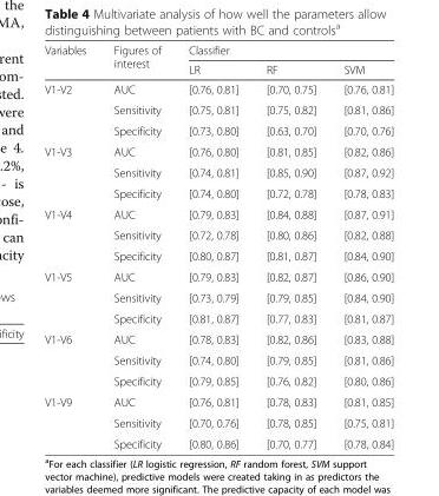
<table><thead><tr><td rowspan="2">Variables</td><td rowspan="2">Figures of interest</td><td colspan="3">Classifier</td></tr><tr><td>LR</td><td>RF</td><td>SVM</td></tr></thead><tbody><tr><td rowspan="3">V1-V2</td><td>AUC</td><td>[0.76, 0.81]</td><td>[0.70, 0.75]</td><td>[0.76, 0.81]</td></tr><tr><td>Sensitivity</td><td>[0.75, 0.81]</td><td>[0.75, 0.82]</td><td>[0.81, 0.86]</td></tr><tr><td>Specificity</td><td>[0.73, 0.80]</td><td>[0.63, 0.70]</td><td>[0.70, 0.76]</td></tr><tr><td rowspan="3">V1-V3</td><td>AUC</td><td>[0.76, 0.80]</td><td>[0.81, 0.85]</td><td>[0.82, 0.86]</td></tr><tr><td>Sensitivity</td><td>[0.74, 0.81]</td><td>[0.85, 0.90]</td><td>[0.87, 0.92]</td></tr><tr><td>Specificity</td><td>[0.74, 0.80]</td><td>[0.72, 0.78]</td><td>[0.78, 0.83]</td></tr><tr><td rowspan="3">V1-V4</td><td>AUC</td><td>[0.79, 0.83]</td><td>[0.84, 0.88]</td><td>[0.87, 0.91]</td></tr><tr><td>Sensitivity</td><td>[0.72, 0.78]</td><td>[0.80, 0.86]</td><td>[0.82, 0.88]</td></tr><tr><td>Specificity</td><td>[0.80, 0.87]</td><td>[0.81, 0.87]</td><td>[0.84, 0.90]</td></tr><tr><td rowspan="3">V1-V5</td><td>AUC</td><td>[0.79, 0.83]</td><td>[0.82, 0.87]</td><td>[0.86, 0.90]</td></tr><tr><td>Sensitivity</td><td>[0.73, 0.79]</td><td>[0.79, 0.85]</td><td>[0.84, 0.90]</td></tr><tr><td>Specificity</td><td>[0.81, 0.87]</td><td>[0.77, 0.83]</td><td>[0.81, 0.87]</td></tr><tr><td rowspan="3">V1-V6</td><td>AUC</td><td>[0.78, 0.83]</td><td>[0.82, 0.86]</td><td>[0.83, 0.88]</td></tr><tr><td>Sensitivity</td><td>[0.74, 0.80]</td><td>[0.79, 0.85]</td><td>[0.81, 0.86]</td></tr><tr><td>Specificity</td><td>[0.79, 0.85]</td><td>[0.76, 0.82]</td><td>[0.80, 0.86]</td></tr><tr><td rowspan="3">V1-V9</td><td>AUC</td><td>[0.76, 0.81]</td><td>[0.78, 0.83]</td><td>[0.81, 0.85]</td></tr><tr><td>Sensitivity</td><td>[0.70, 0.76]</td><td>[0.78, 0.85]</td><td>[0.75, 0.81]</td></tr><tr><td>Specificity</td><td>[0.80, 0.86]</td><td>[0.70, 0.77]</td><td>[0.78, 0.84]</td></tr></tbody></table>